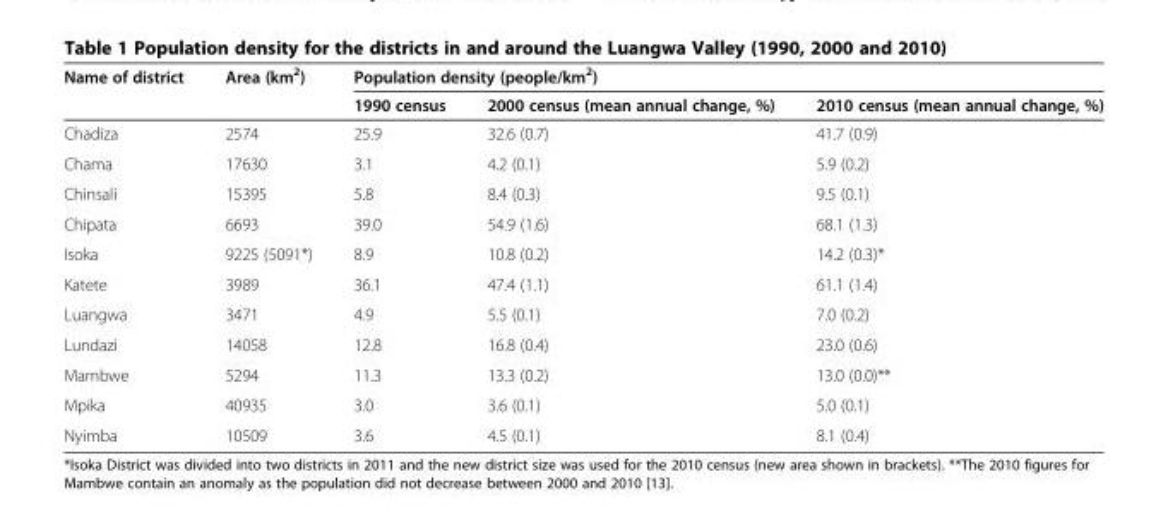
<table><thead><tr><td rowspan="2">Name of district</td><td rowspan="2">Area (km<sup>2</sup>)</td><td colspan="3">Population density (people/km<sup>2</sup>)</td></tr><tr><td>1990 census</td><td>2000 census (mean annual change, %)</td><td>2010 census (mean annual change, %)</td></tr></thead><tbody><tr><td>Chadiza</td><td>2574</td><td>25.9</td><td>32.6 (0.7)</td><td>41.7 (0.9)</td></tr><tr><td>Chama</td><td>17630</td><td>3.1</td><td>4.2 (0.1)</td><td>5.9 (0.2)</td></tr><tr><td>Chinsali</td><td>15395</td><td>5.8</td><td>8.4 (0.3)</td><td>9.5 (0.1)</td></tr><tr><td>Chipata</td><td>6693</td><td>39.0</td><td>54.9 (1.6)</td><td>68.1 (1.3)</td></tr><tr><td>Isoka</td><td>9225 (5091*)</td><td>8.9</td><td>10.8 (0.2)</td><td>14.2 (0.3)*</td></tr><tr><td>Katete</td><td>3989</td><td>36.1</td><td>47.4 (1.1)</td><td>61.1 (1.4)</td></tr><tr><td>Luangwa</td><td>3471</td><td>4.9</td><td>5.5 (0.1)</td><td>7.0 (0.2)</td></tr><tr><td>Lundazi</td><td>14058</td><td>12.8</td><td>16.8 (0.4)</td><td>23.0 (0.6)</td></tr><tr><td>Mambwe</td><td>5294</td><td>11.3</td><td>13.3 (0.2)</td><td>13.0 (0.0)**</td></tr><tr><td>Mpika</td><td>40935</td><td>3.0</td><td>3.6 (0.1)</td><td>5.0 (0.1)</td></tr><tr><td>Nyimba</td><td>10509</td><td>3.6</td><td>4.5 (0.1)</td><td>8.1 (0.4)</td></tr></tbody></table>